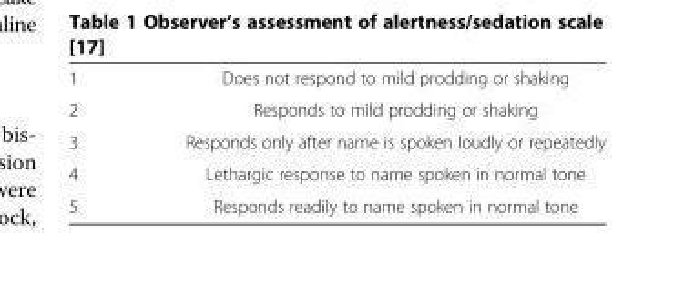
<table><tbody><tr><td>1</td><td>Does not respond to mild prodding or shaking</td></tr><tr><td>2</td><td>Responds to mild prodding or shaking</td></tr><tr><td>3</td><td>Responds only after name is spoken loudly or repeatedly</td></tr><tr><td>4</td><td>Lethargic response to name spoken in normal tone</td></tr><tr><td>5</td><td>Responds readily to name spoken in normal tone</td></tr></tbody></table>